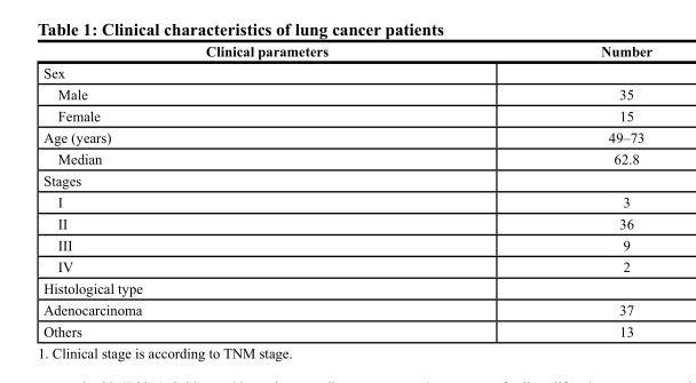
<table><thead><tr><td>clinical parameters</td><td>number</td></tr></thead><tbody><tr><td colspan="2">Sex</td></tr><tr><td>Male</td><td>35</td></tr><tr><td>Female</td><td>15</td></tr><tr><td>Age (years)</td><td>49–73</td></tr><tr><td>Median</td><td>62.8</td></tr><tr><td colspan="2">Stages</td></tr><tr><td>I</td><td>3</td></tr><tr><td>II</td><td>36</td></tr><tr><td>III</td><td>9</td></tr><tr><td>IV</td><td>2</td></tr><tr><td colspan="2">Histological type</td></tr><tr><td>Adenocarcinoma</td><td>37</td></tr><tr><td>Others</td><td>13</td></tr></tbody></table>